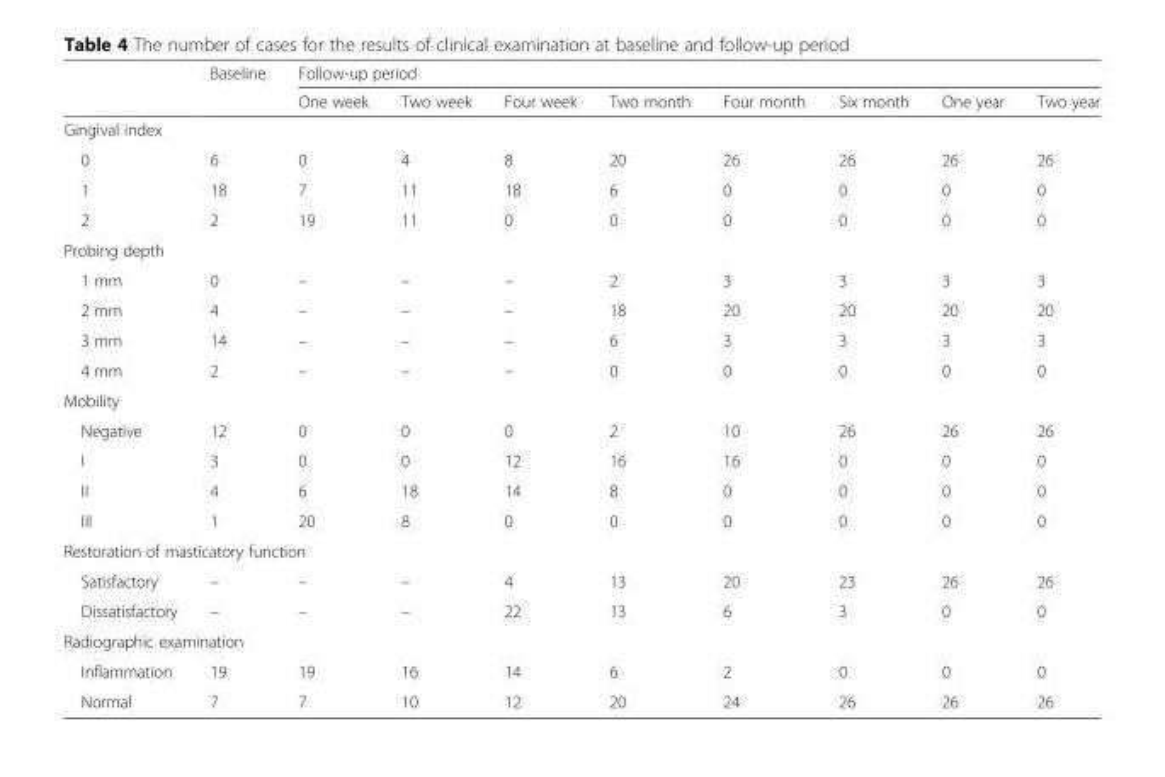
<table><thead><tr><td rowspan="2"></td><td rowspan="2">Baseline</td><td colspan="8">Follow-up period</td></tr><tr><td>One week</td><td>Two week</td><td>Four week</td><td>Two month</td><td>Four month</td><td>Six month</td><td>One year</td><td>Two year</td></tr></thead><tbody><tr><td colspan="10">Gingival index</td></tr><tr><td>0</td><td>6</td><td>0</td><td>4</td><td>8</td><td>20</td><td>26</td><td>26</td><td>26</td><td>26</td></tr><tr><td>1</td><td>18</td><td>7</td><td>11</td><td>18</td><td>6</td><td>0</td><td>0</td><td>0</td><td>0</td></tr><tr><td>2</td><td>2</td><td>19</td><td>11</td><td>0</td><td>0</td><td>0</td><td>0</td><td>0</td><td>0</td></tr><tr><td colspan="10">Probing depth</td></tr><tr><td>1 mm</td><td>0</td><td>–</td><td>–</td><td>–</td><td>2</td><td>3</td><td>3</td><td>3</td><td>3</td></tr><tr><td>2 mm</td><td>4</td><td>–</td><td>–</td><td>–</td><td>18</td><td>20</td><td>20</td><td>20</td><td>20</td></tr><tr><td>3 mm</td><td>14</td><td>–</td><td>–</td><td>–</td><td>6</td><td>3</td><td>3</td><td>3</td><td>3</td></tr><tr><td>4 mm</td><td>2</td><td>–</td><td>–</td><td>–</td><td>0</td><td>0</td><td>0</td><td>0</td><td>0</td></tr><tr><td colspan="10">Mobility</td></tr><tr><td>Negative</td><td>12</td><td>0</td><td>0</td><td>0</td><td>2</td><td>10</td><td>26</td><td>26</td><td>26</td></tr><tr><td>I</td><td>3</td><td>0</td><td>0</td><td>12</td><td>16</td><td>16</td><td>0</td><td>0</td><td>0</td></tr><tr><td>II</td><td>4</td><td>6</td><td>18</td><td>14</td><td>8</td><td>0</td><td>0</td><td>0</td><td>0</td></tr><tr><td>III</td><td>1</td><td>20</td><td>8</td><td>0</td><td>0</td><td>0</td><td>0</td><td>0</td><td>0</td></tr><tr><td colspan="10">Restoration of masticatory function</td></tr><tr><td>Satisfactory</td><td>–</td><td>–</td><td>–</td><td>4</td><td>13</td><td>20</td><td>23</td><td>26</td><td>26</td></tr><tr><td>Dissatisfactory</td><td>–</td><td>–</td><td>–</td><td>22</td><td>13</td><td>6</td><td>3</td><td>0</td><td>0</td></tr><tr><td colspan="10">Radiographic examination</td></tr><tr><td>Inflammation</td><td>19</td><td>19</td><td>16</td><td>14</td><td>6</td><td>2</td><td>0</td><td>0</td><td>0</td></tr><tr><td>Normal</td><td>7</td><td>7</td><td>10</td><td>12</td><td>20</td><td>24</td><td>26</td><td>26</td><td>26</td></tr></tbody></table>